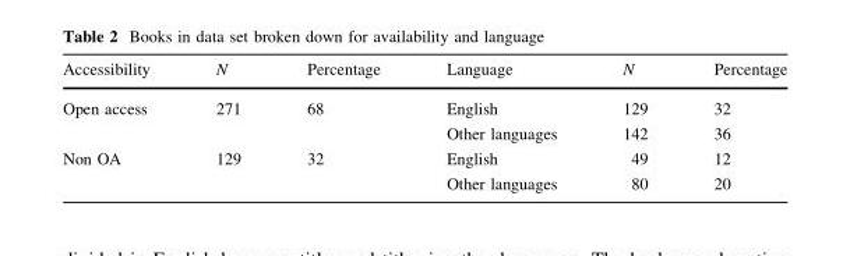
<table><thead><tr><td>Accessibility</td><td>N</td><td>Percentage</td><td>Language</td><td>N</td><td>Percentage</td></tr></thead><tbody><tr><td rowspan="2">Open access</td><td rowspan="2">271</td><td rowspan="2">68</td><td>English</td><td>129</td><td>32</td></tr><tr><td>Other languages</td><td>142</td><td>36</td></tr><tr><td rowspan="2">Non OA</td><td rowspan="2">129</td><td rowspan="2">32</td><td>English</td><td>49</td><td>12</td></tr><tr><td>Other languages</td><td>80</td><td>20</td></tr></tbody></table>